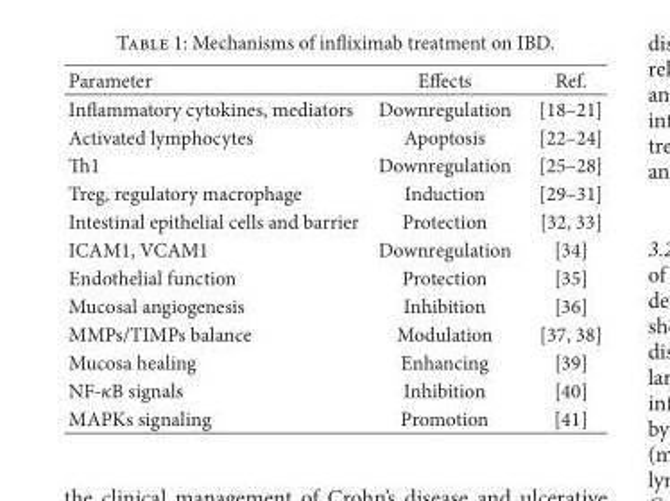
<table><thead><tr><td>Parameter</td><td>Effects</td><td>Ref.</td></tr></thead><tbody><tr><td>In�ammatory cytokines, mediators</td><td>Downregulation</td><td>[18–21]</td></tr><tr><td>Activated lymphocytes</td><td>Apoptosis</td><td>[22–24]</td></tr><tr><td>1</td><td>Downregulation</td><td>[25–28]</td></tr><tr><td>Treg, regulatory macrophage</td><td>Induction</td><td>[29–31]</td></tr><tr><td>Intestinal epithelial cells and barrier</td><td>Protection</td><td>[32, 33]</td></tr><tr><td>ICAM1, VCAM1</td><td>Downregulation</td><td>[34]</td></tr><tr><td>Endothelial function</td><td>Protection</td><td>[35]</td></tr><tr><td>Mucosal angiogenesis</td><td>Inhibition</td><td>[36]</td></tr><tr><td>MMPs/TIMPs balance</td><td>Modulation</td><td>[37, 38]</td></tr><tr><td>Mucosa healing</td><td>Enhancing</td><td>[39]</td></tr><tr><td>NF-𝜅𝜅B signals</td><td>Inhibition</td><td>[40]</td></tr><tr><td>MAPKs signaling</td><td>Promotion</td><td>[41]</td></tr></tbody></table>